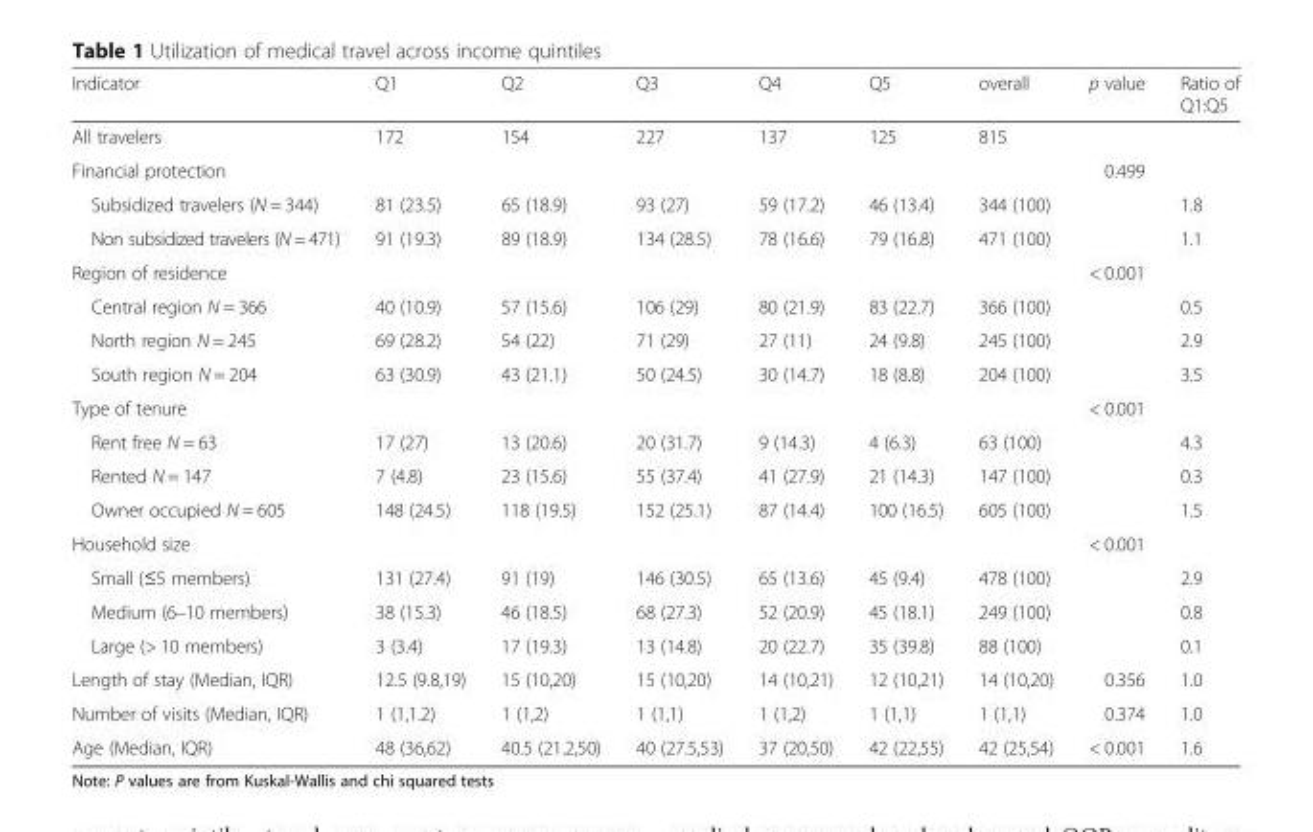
<table><thead><tr><td>Indicator</td><td>Q1</td><td>Q2</td><td>Q3</td><td>Q4</td><td>Q5</td><td>overall</td><td>p value</td><td>Ratio of Q1:Q5</td></tr></thead><tbody><tr><td>All travelers</td><td>172</td><td>154</td><td>227</td><td>137</td><td>125</td><td>815</td><td></td><td></td></tr><tr><td>Financial protection</td><td></td><td></td><td></td><td></td><td></td><td></td><td>0.499</td><td></td></tr><tr><td>Subsidized travelers (N = 344)</td><td>81 (23.5)</td><td>65 (18.9)</td><td>93 (27)</td><td>59 (17.2)</td><td>46 (13.4)</td><td>344 (100)</td><td></td><td>1.8</td></tr><tr><td>Non subsidized travelers (N = 471)</td><td>91 (19.3)</td><td>89 (18.9)</td><td>134 (28.5)</td><td>78 (16.6)</td><td>79 (16.8)</td><td>471 (100)</td><td></td><td>1.1</td></tr><tr><td>Region of residence</td><td></td><td></td><td></td><td></td><td></td><td></td><td>&lt; 0.001</td><td></td></tr><tr><td>Central region N = 366</td><td>40 (10.9)</td><td>57 (15.6)</td><td>106 (29)</td><td>80 (21.9)</td><td>83 (22.7)</td><td>366 (100)</td><td></td><td>0.5</td></tr><tr><td>North region N = 245</td><td>69 (28.2)</td><td>54 (22)</td><td>71 (29)</td><td>27 (11)</td><td>24 (9.8)</td><td>245 (100)</td><td></td><td>2.9</td></tr><tr><td>South region N = 204</td><td>63 (30.9)</td><td>43 (21.1)</td><td>50 (24.5)</td><td>30 (14.7)</td><td>18 (8.8)</td><td>204 (100)</td><td></td><td>3.5</td></tr><tr><td>Type of tenure</td><td></td><td></td><td></td><td></td><td></td><td></td><td>&lt; 0.001</td><td></td></tr><tr><td>Rent free N = 63</td><td>17 (27)</td><td>13 (20.6)</td><td>20 (31.7)</td><td>9 (14.3)</td><td>4 (6.3)</td><td>63 (100)</td><td></td><td>4.3</td></tr><tr><td>Rented N = 147</td><td>7 (4.8)</td><td>23 (15.6)</td><td>55 (37.4)</td><td>41 (27.9)</td><td>21 (14.3)</td><td>147 (100)</td><td></td><td>0.3</td></tr><tr><td>Owner occupied N = 605</td><td>148 (24.5)</td><td>118 (19.5)</td><td>152 (25.1)</td><td>87 (14.4)</td><td>100 (16.5)</td><td>605 (100)</td><td></td><td>1.5</td></tr><tr><td>Household size</td><td></td><td></td><td></td><td></td><td></td><td></td><td>&lt; 0.001</td><td></td></tr><tr><td>Small (≤5 members)</td><td>131 (27.4)</td><td>91 (19)</td><td>146 (30.5)</td><td>65 (13.6)</td><td>45 (9.4)</td><td>478 (100)</td><td></td><td>2.9</td></tr><tr><td>Medium (6–10 members)</td><td>38 (15.3)</td><td>46 (18.5)</td><td>68 (27.3)</td><td>52 (20.9)</td><td>45 (18.1)</td><td>249 (100)</td><td></td><td>0.8</td></tr><tr><td>Large (&gt; 10 members)</td><td>3 (3.4)</td><td>17 (19.3)</td><td>13 (14.8)</td><td>20 (22.7)</td><td>35 (39.8)</td><td>88 (100)</td><td></td><td>0.1</td></tr><tr><td>Length of stay (Median, IQR)</td><td>12.5 (9.8,19)</td><td>15 (10,20)</td><td>15 (10,20)</td><td>14 (10,21)</td><td>12 (10,21)</td><td>14 (10,20)</td><td>0.356</td><td>1.0</td></tr><tr><td>Number of visits (Median, IQR)</td><td>1 (1,1.2)</td><td>1 (1,2)</td><td>1 (1,1)</td><td>1 (1,2)</td><td>1 (1,1)</td><td>1 (1,1)</td><td>0.374</td><td>1.0</td></tr><tr><td>Age (Median, IQR)</td><td>48 (36,62)</td><td>40.5 (21.2,50)</td><td>40 (27.5,53)</td><td>37 (20,50)</td><td>42 (22,55)</td><td>42 (25,54)</td><td>&lt; 0.001</td><td>1.6</td></tr></tbody></table>